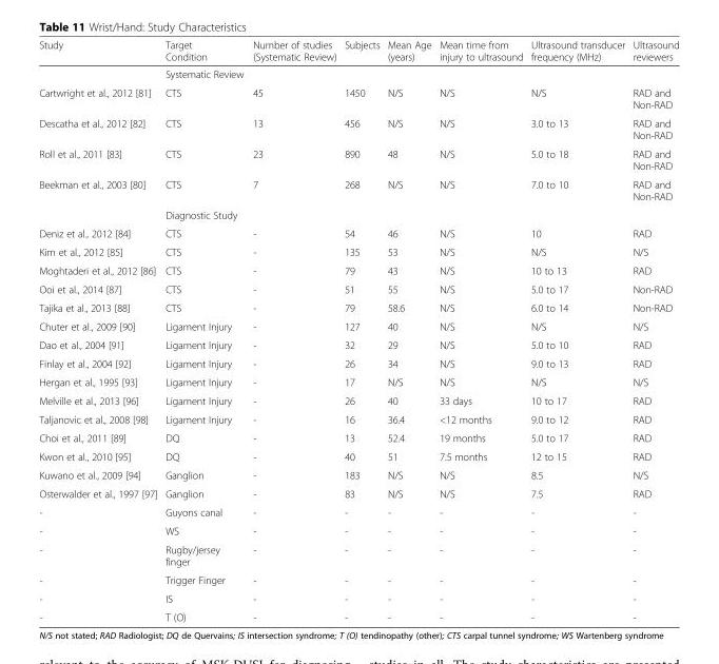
<table><thead><tr><td>Study</td><td>Target Condition</td><td>Number of studies (Systematic Review)</td><td>Subjects</td><td>Mean Age (years)</td><td>Mean time from injury to ultrasound</td><td>Ultrasound transducer frequency (MHz)</td><td>Ultrasound reviewers</td></tr></thead><tbody><tr><td></td><td>Systematic Review</td><td></td><td></td><td></td><td></td><td></td><td></td></tr><tr><td>Cartwright et al., 2012 [81]</td><td>CTS</td><td>45</td><td>1450</td><td>N/S</td><td>N/S</td><td>N/S</td><td>RAD and Non-RAD</td></tr><tr><td>Descatha et al., 2012 [82]</td><td>CTS</td><td>13</td><td>456</td><td>N/S</td><td>N/S</td><td>3.0 to 13</td><td>RAD and Non-RAD</td></tr><tr><td>Roll et al., 2011 [83]</td><td>CTS</td><td>23</td><td>890</td><td>48</td><td>N/S</td><td>5.0 to 18</td><td>RAD and Non-RAD</td></tr><tr><td rowspan="2">Beekman et al., 2003 [80]</td><td>CTS</td><td>7</td><td>268</td><td>N/S</td><td>N/S</td><td>7.0 to 10</td><td>RAD and Non-RAD</td></tr><tr><td>Diagnostic Study</td><td></td><td></td><td></td><td></td><td></td><td></td></tr><tr><td>Deniz et al., 2012 [84]</td><td>CTS</td><td>-</td><td>54</td><td>46</td><td>N/S</td><td>10</td><td>RAD</td></tr><tr><td>Kim et al., 2012 [85]</td><td>CTS</td><td>-</td><td>135</td><td>53</td><td>N/S</td><td>N/S</td><td>N/S</td></tr><tr><td>Moghtaderi et al., 2012 [86]</td><td>CTS</td><td>-</td><td>79</td><td>43</td><td>N/S</td><td>10 to 13</td><td>RAD</td></tr><tr><td>Ooi et al., 2014 [87]</td><td>CTS</td><td>-</td><td>51</td><td>55</td><td>N/S</td><td>5.0 to 17</td><td>Non-RAD</td></tr><tr><td>Tajika et al., 2013 [88]</td><td>CTS</td><td>-</td><td>79</td><td>58.6</td><td>N/S</td><td>6.0 to 14</td><td>Non-RAD</td></tr><tr><td>Chuter et al., 2009 [90]</td><td>Ligament Injury</td><td>-</td><td>127</td><td>40</td><td>N/S</td><td>N/S</td><td>N/S</td></tr><tr><td>Dao et al., 2004 [91]</td><td>Ligament Injury</td><td>-</td><td>32</td><td>29</td><td>N/S</td><td>5.0 to 10</td><td>RAD</td></tr><tr><td>Finlay et al., 2004 [92]</td><td>Ligament Injury</td><td>-</td><td>26</td><td>34</td><td>N/S</td><td>9.0 to 13</td><td>RAD</td></tr><tr><td>Hergan et al., 1995 [93]</td><td>Ligament Injury</td><td>-</td><td>17</td><td>N/S</td><td>N/S</td><td>N/S</td><td>N/S</td></tr><tr><td>Melville et al., 2013 [96]</td><td>Ligament Injury</td><td>-</td><td>26</td><td>40</td><td>33 days</td><td>10 to 17</td><td>RAD</td></tr><tr><td>Taljanovic et al., 2008 [98]</td><td>Ligament Injury</td><td>-</td><td>16</td><td>36.4</td><td>&lt;12 months</td><td>9.0 to 12</td><td>RAD</td></tr><tr><td>Choi et al., 2011 [89]</td><td>DQ</td><td>-</td><td>13</td><td>52.4</td><td>19 months</td><td>5.0 to 17</td><td>RAD</td></tr><tr><td>Kwon et al., 2010 [95]</td><td>DQ</td><td>-</td><td>40</td><td>51</td><td>7.5 months</td><td>12 to 15</td><td>RAD</td></tr><tr><td>Kuwano et al., 2009 [94]</td><td>Ganglion</td><td>-</td><td>183</td><td>N/S</td><td>N/S</td><td>8.5</td><td>N/S</td></tr><tr><td>Osterwalder et al., 1997 [97]</td><td>Ganglion</td><td>-</td><td>83</td><td>N/S</td><td>N/S</td><td>7.5</td><td>RAD</td></tr><tr><td>-</td><td>Guyons canal</td><td>-</td><td>-</td><td>-</td><td>-</td><td>-</td><td>-</td></tr><tr><td>-</td><td>WS</td><td>-</td><td>-</td><td>-</td><td>-</td><td>-</td><td>-</td></tr><tr><td>-</td><td>Rugby/jersey finger</td><td>-</td><td>-</td><td>-</td><td>-</td><td>-</td><td>-</td></tr><tr><td>-</td><td>Trigger Finger</td><td>-</td><td>-</td><td>-</td><td>-</td><td>-</td><td>-</td></tr><tr><td>-</td><td>IS</td><td>-</td><td>-</td><td>-</td><td>-</td><td>-</td><td>-</td></tr><tr><td>-</td><td>T (O)</td><td>-</td><td>-</td><td>-</td><td>-</td><td>-</td><td>-</td></tr></tbody></table>